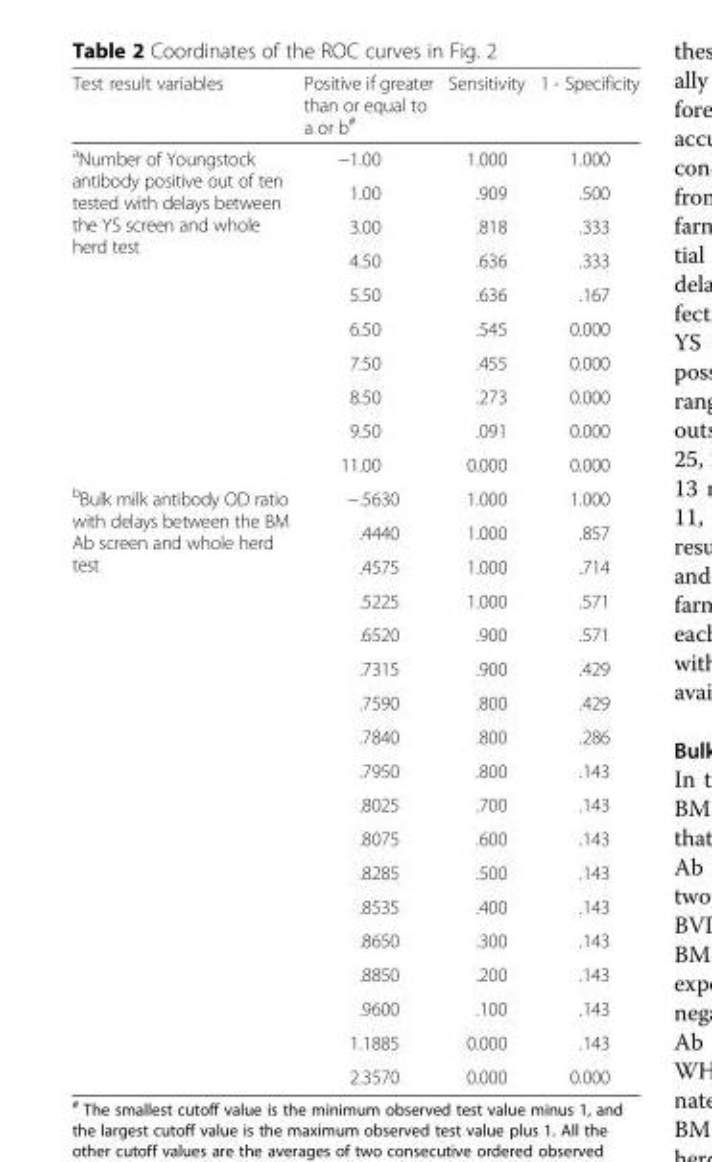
<table><thead><tr><td>Test result variables</td><td>Positive if greater than or equal to a or b<sup>#</sup></td><td>Sensitivity</td><td>1 - Specificity</td></tr></thead><tbody><tr><td rowspan="10"><sup>a</sup>Number of Youngstock antibody positive out of ten tested with delays between the YS screen and whole herd test</td><td>−1.00</td><td>1.000</td><td>1.000</td></tr><tr><td>1.00</td><td>.909</td><td>.500</td></tr><tr><td>3.00</td><td>.818</td><td>.333</td></tr><tr><td>4.50</td><td>.636</td><td>.333</td></tr><tr><td>5.50</td><td>.636</td><td>.167</td></tr><tr><td>6.50</td><td>.545</td><td>0.000</td></tr><tr><td>7.50</td><td>.455</td><td>0.000</td></tr><tr><td>8.50</td><td>.273</td><td>0.000</td></tr><tr><td>9.50</td><td>.091</td><td>0.000</td></tr><tr><td>11.00</td><td>0.000</td><td>0.000</td></tr><tr><td rowspan="18"><sup>b</sup>Bulk milk antibody OD ratio with delays between the BM Ab screen and whole herd test</td><td>−.5630</td><td>1.000</td><td>1.000</td></tr><tr><td>.4440</td><td>1.000</td><td>.857</td></tr><tr><td>.4575</td><td>1.000</td><td>.714</td></tr><tr><td>.5225</td><td>1.000</td><td>.571</td></tr><tr><td>.6520</td><td>.900</td><td>.571</td></tr><tr><td>.7315</td><td>.900</td><td>.429</td></tr><tr><td>.7590</td><td>.800</td><td>.429</td></tr><tr><td>.7840</td><td>.800</td><td>.286</td></tr><tr><td>.7950</td><td>.800</td><td>.143</td></tr><tr><td>.8025</td><td>.700</td><td>.143</td></tr><tr><td>.8075</td><td>.600</td><td>.143</td></tr><tr><td>.8285</td><td>.500</td><td>.143</td></tr><tr><td>.8535</td><td>.400</td><td>.143</td></tr><tr><td>.8650</td><td>.300</td><td>.143</td></tr><tr><td>.8850</td><td>.200</td><td>.143</td></tr><tr><td>.9600</td><td>.100</td><td>.143</td></tr><tr><td>1.1885</td><td>0.000</td><td>.143</td></tr><tr><td>2.3570</td><td>0.000</td><td>0.000</td></tr></tbody></table>